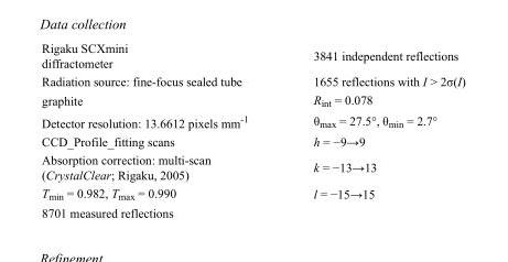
<table><tbody><tr><td>Rigaku SCXmini diffractometer</td><td>3841 independent reflections</td></tr><tr><td>Radiation source: fine-focus sealed tube</td><td>1655 reflections with I &gt; 2σ(I)</td></tr><tr><td>graphite</td><td>R<sub>int</sub> = 0.078</td></tr><tr><td>Detector resolution: 13.6612 pixels mm<sup>-1</sup></td><td>θ<sub>max</sub> = 27.5°, θ<sub>min</sub> = 2.7°</td></tr><tr><td>CCD_Profile_fitting scans</td><td>h = −9→9</td></tr><tr><td>Absorption correction: multi-scan (CrystalClear; Rigaku, 2005)</td><td>k = −13→13</td></tr><tr><td>T<sub>min</sub> = 0.982, T<sub>max</sub> = 0.990</td><td>l = −15→15</td></tr><tr><td>8701 measured reflections</td><td></td></tr></tbody></table>